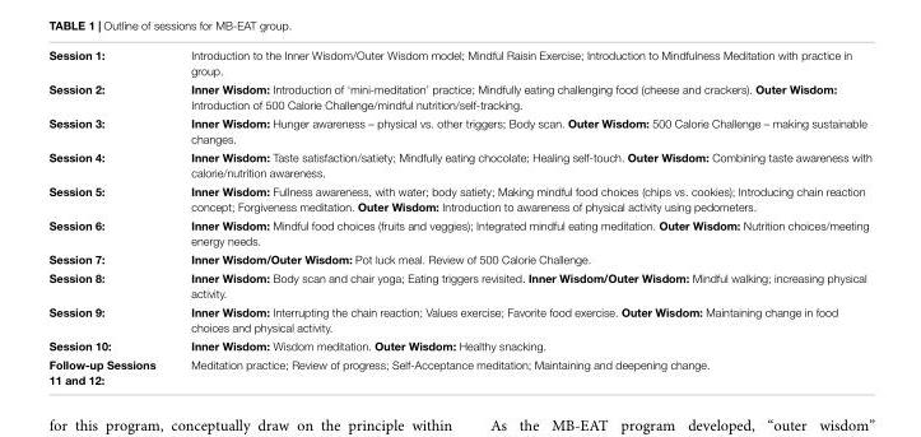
<table><tbody><tr><td>Session 1:</td><td>Introduction to the Inner Wisdom/Outer Wisdom model; Mindful Raisin Exercise; Introduction to Mindfulness Meditation with practice in group.</td></tr><tr><td>Session 2:</td><td>Inner Wisdom: Introduction of ‘mini-meditation’ practice; Mindfully eating challenging food (cheese and crackers). Outer Wisdom: Introduction of 500 Calorie Challenge/mindful nutrition/self-tracking.</td></tr><tr><td>Session 3:</td><td>Inner Wisdom: Hunger awareness – physical vs. other triggers; Body scan. Outer Wisdom: 500 Calorie Challenge – making sustainable changes.</td></tr><tr><td>Session 4:</td><td>Inner Wisdom: Taste satisfaction/satiety; Mindfully eating chocolate; Healing self-touch. Outer Wisdom: Combining taste awareness with calorie/nutrition awareness.</td></tr><tr><td>Session 5:</td><td>Inner Wisdom: Fullness awareness, with water; body satiety; Making mindful food choices (chips vs. cookies); Introducing chain reaction concept; Forgiveness meditation. Outer Wisdom: Introduction to awareness of physical activity using pedometers.</td></tr><tr><td>Session 6:</td><td>Inner Wisdom: Mindful food choices (fruits and veggies); Integrated mindful eating meditation. Outer Wisdom: Nutrition choices/meeting energy needs.</td></tr><tr><td>Session 7:</td><td>Inner Wisdom/Outer Wisdom: Pot luck meal. Review of 500 Calorie Challenge.</td></tr><tr><td>Session 8:</td><td>Inner Wisdom: Body scan and chair yoga; Eating triggers revisited. Inner Wisdom/Outer Wisdom: Mindful walking; increasing physical activity.</td></tr><tr><td>Session 9:</td><td>Inner Wisdom: Interrupting the chain reaction; Values exercise; Favorite food exercise. Outer Wisdom: Maintaining change in food choices and physical activity.</td></tr><tr><td>Session 10:</td><td>Inner Wisdom: Wisdom meditation. Outer Wisdom: Healthy snacking.</td></tr><tr><td>Follow-up Sessions 11 and 12:</td><td>Meditation practice; Review of progress; Self-Acceptance meditation; Maintaining and deepening change.</td></tr></tbody></table>